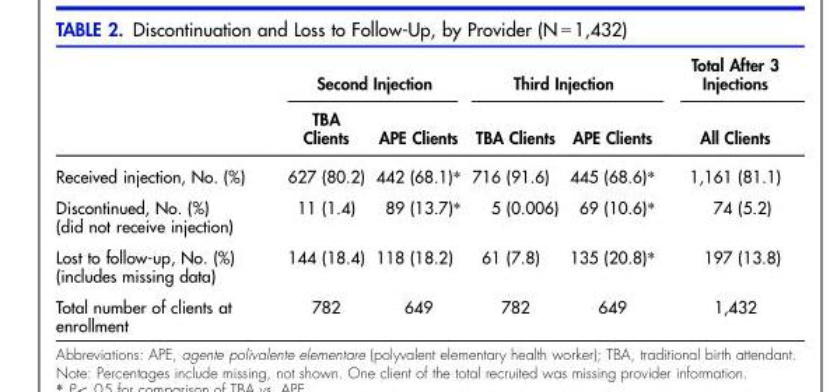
<table><thead><tr><td rowspan="2"></td><td colspan="2">Second Injection</td><td colspan="2">Third Injection</td><td rowspan="2">Total After 3 Injections All Clients</td></tr><tr><td>TBA Clients</td><td>APE Clients</td><td>TBA Clients</td><td>APE Clients</td></tr></thead><tbody><tr><td>Received injection, No. (%)</td><td>627 (80.2)</td><td>442 (68.1)*</td><td>716 (91.6)</td><td>445 (68.6)*</td><td>1,161 (81.1)</td></tr><tr><td>Discontinued, No. (%) (did not receive injection)</td><td>11 (1.4)</td><td>89 (13.7)*</td><td>5 (0.006)</td><td>69 (10.6)*</td><td>74 (5.2)</td></tr><tr><td>Lost to follow-up, No. (%) (includes missing data)</td><td>144 (18.4)</td><td>118 (18.2)</td><td>61 (7.8)</td><td>135 (20.8)*</td><td>197 (13.8)</td></tr><tr><td>Total number of clients at enrollment</td><td>782</td><td>649</td><td>782</td><td>649</td><td>1,432</td></tr></tbody></table>